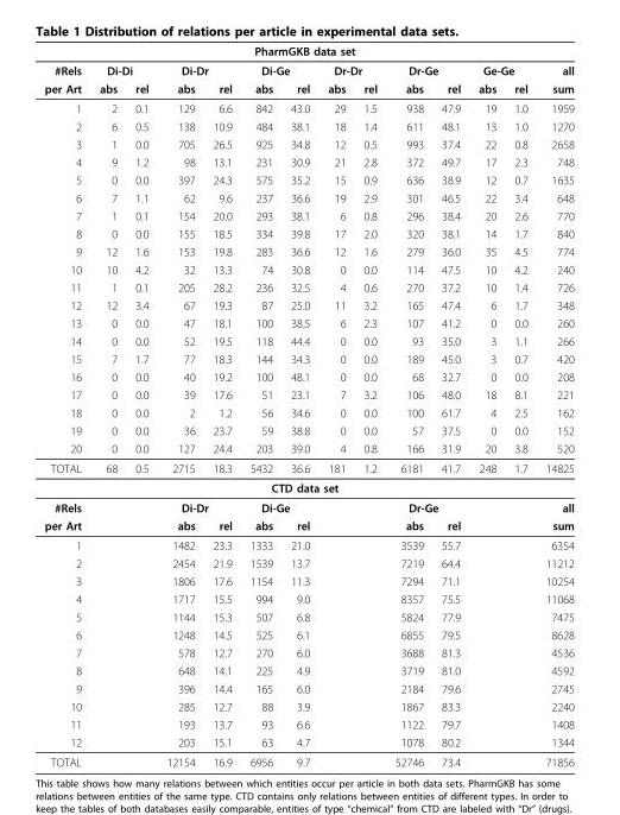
<table><thead><tr><td colspan="14">PharmGKB data set</td></tr><tr><td rowspan="2">#Rels per Art</td><td colspan="2">Di-Di</td><td colspan="2">Di-Dr</td><td colspan="2">Di-Ge</td><td colspan="2">Dr-Dr</td><td colspan="2">Dr-Ge</td><td colspan="2">Ge-Ge</td><td rowspan="2">all sum</td></tr><tr><td>abs</td><td>rel</td><td>abs</td><td>rel</td><td>abs</td><td>rel</td><td>abs</td><td>rel</td><td>abs</td><td>rel</td><td>abs</td><td>rel</td></tr></thead><tbody><tr><td>1</td><td>2</td><td>0.1</td><td>129</td><td>6.6</td><td>842</td><td>43.0</td><td>29</td><td>1.5</td><td>938</td><td>47.9</td><td>19</td><td>1.0</td><td>1959</td></tr><tr><td>2</td><td>6</td><td>0.5</td><td>138</td><td>10.9</td><td>484</td><td>38.1</td><td>18</td><td>1.4</td><td>611</td><td>48.1</td><td>13</td><td>1.0</td><td>1270</td></tr><tr><td>3</td><td>1</td><td>0.0</td><td>705</td><td>26.5</td><td>925</td><td>34.8</td><td>12</td><td>0.5</td><td>993</td><td>37.4</td><td>22</td><td>0.8</td><td>2658</td></tr><tr><td>4</td><td>9</td><td>1.2</td><td>98</td><td>13.1</td><td>231</td><td>30.9</td><td>21</td><td>2.8</td><td>372</td><td>49.7</td><td>17</td><td>2.3</td><td>748</td></tr><tr><td>5</td><td>0</td><td>0.0</td><td>397</td><td>24.3</td><td>575</td><td>35.2</td><td>15</td><td>0.9</td><td>636</td><td>38.9</td><td>12</td><td>0.7</td><td>1635</td></tr><tr><td>6</td><td>7</td><td>1.1</td><td>62</td><td>9.6</td><td>237</td><td>36.6</td><td>19</td><td>2.9</td><td>301</td><td>46.5</td><td>22</td><td>3.4</td><td>648</td></tr><tr><td>7</td><td>1</td><td>0.1</td><td>154</td><td>20.0</td><td>293</td><td>38.1</td><td>6</td><td>0.8</td><td>296</td><td>38.4</td><td>20</td><td>2.6</td><td>770</td></tr><tr><td>8</td><td>0</td><td>0.0</td><td>155</td><td>18.5</td><td>334</td><td>39.8</td><td>17</td><td>2.0</td><td>320</td><td>38.1</td><td>14</td><td>1.7</td><td>840</td></tr><tr><td>9</td><td>12</td><td>1.6</td><td>153</td><td>19.8</td><td>283</td><td>36.6</td><td>12</td><td>1.6</td><td>279</td><td>36.0</td><td>35</td><td>4.5</td><td>774</td></tr><tr><td>10</td><td>10</td><td>4.2</td><td>32</td><td>13.3</td><td>74</td><td>30.8</td><td>0</td><td>0.0</td><td>114</td><td>47.5</td><td>10</td><td>4.2</td><td>240</td></tr><tr><td>11</td><td>1</td><td>0.1</td><td>205</td><td>28.2</td><td>236</td><td>32.5</td><td>4</td><td>0.6</td><td>270</td><td>37.2</td><td>10</td><td>1.4</td><td>726</td></tr><tr><td>12</td><td>12</td><td>3.4</td><td>67</td><td>19.3</td><td>87</td><td>25.0</td><td>11</td><td>3.2</td><td>165</td><td>47.4</td><td>6</td><td>1.7</td><td>348</td></tr><tr><td>13</td><td>0</td><td>0.0</td><td>47</td><td>18.1</td><td>100</td><td>38.5</td><td>6</td><td>2.3</td><td>107</td><td>41.2</td><td>0</td><td>0.0</td><td>260</td></tr><tr><td>14</td><td>0</td><td>0.0</td><td>52</td><td>19.5</td><td>118</td><td>44.4</td><td>0</td><td>0.0</td><td>93</td><td>35.0</td><td>3</td><td>1.1</td><td>266</td></tr><tr><td>15</td><td>7</td><td>1.7</td><td>77</td><td>18.3</td><td>144</td><td>34.3</td><td>0</td><td>0.0</td><td>189</td><td>45.0</td><td>3</td><td>0.7</td><td>420</td></tr><tr><td>16</td><td>0</td><td>0.0</td><td>40</td><td>19.2</td><td>100</td><td>48.1</td><td>0</td><td>0.0</td><td>68</td><td>32.7</td><td>0</td><td>0.0</td><td>208</td></tr><tr><td>17</td><td>0</td><td>0.0</td><td>39</td><td>17.6</td><td>51</td><td>23.1</td><td>7</td><td>3.2</td><td>106</td><td>48.0</td><td>18</td><td>8.1</td><td>221</td></tr><tr><td>18</td><td>0</td><td>0.0</td><td>2</td><td>1.2</td><td>56</td><td>34.6</td><td>0</td><td>0.0</td><td>100</td><td>61.7</td><td>4</td><td>2.5</td><td>162</td></tr><tr><td>19</td><td>0</td><td>0.0</td><td>36</td><td>23.7</td><td>59</td><td>38.8</td><td>0</td><td>0.0</td><td>57</td><td>37.5</td><td>0</td><td>0.0</td><td>152</td></tr><tr><td>20</td><td>0</td><td>0.0</td><td>127</td><td>24.4</td><td>203</td><td>39.0</td><td>4</td><td>0.8</td><td>166</td><td>31.9</td><td>20</td><td>3.8</td><td>520</td></tr><tr><td>TOTAL</td><td>68</td><td>0.5</td><td>2715</td><td>18.3</td><td>5432</td><td>36.6</td><td>181</td><td>1.2</td><td>6181</td><td>41.7</td><td>248</td><td>1.7</td><td>14825</td></tr><tr><td colspan="14">CTD data set</td></tr><tr><td>#Rels</td><td></td><td></td><td colspan="2">Di-Dr</td><td colspan="2">Di-Ge</td><td></td><td></td><td colspan="2">Dr-Ge</td><td></td><td></td><td>all</td></tr><tr><td>per Art</td><td></td><td></td><td>abs</td><td>rel</td><td>abs</td><td>rel</td><td></td><td></td><td>abs</td><td>rel</td><td></td><td></td><td>sum</td></tr><tr><td>1</td><td></td><td></td><td>1482</td><td>23.3</td><td>1333</td><td>21.0</td><td></td><td></td><td>3539</td><td>55.7</td><td></td><td></td><td>6354</td></tr><tr><td>2</td><td></td><td></td><td>2454</td><td>21.9</td><td>1539</td><td>13.7</td><td></td><td></td><td>7219</td><td>64.4</td><td></td><td></td><td>11212</td></tr><tr><td>3</td><td></td><td></td><td>1806</td><td>17.6</td><td>1154</td><td>11.3</td><td></td><td></td><td>7294</td><td>71.1</td><td></td><td></td><td>10254</td></tr><tr><td>4</td><td></td><td></td><td>1717</td><td>15.5</td><td>994</td><td>9.0</td><td></td><td></td><td>8357</td><td>75.5</td><td></td><td></td><td>11068</td></tr><tr><td>5</td><td></td><td></td><td>1144</td><td>15.3</td><td>507</td><td>6.8</td><td></td><td></td><td>5824</td><td>77.9</td><td></td><td></td><td>7475</td></tr><tr><td>6</td><td></td><td></td><td>1248</td><td>14.5</td><td>525</td><td>6.1</td><td></td><td></td><td>6855</td><td>79.5</td><td></td><td></td><td>8628</td></tr><tr><td>7</td><td></td><td></td><td>578</td><td>12.7</td><td>270</td><td>6.0</td><td></td><td></td><td>3688</td><td>81.3</td><td></td><td></td><td>4536</td></tr><tr><td>8</td><td></td><td></td><td>648</td><td>14.1</td><td>225</td><td>4.9</td><td></td><td></td><td>3719</td><td>81.0</td><td></td><td></td><td>4592</td></tr><tr><td>9</td><td></td><td></td><td>396</td><td>14.4</td><td>165</td><td>6.0</td><td></td><td></td><td>2184</td><td>79.6</td><td></td><td></td><td>2745</td></tr><tr><td>10</td><td></td><td></td><td>285</td><td>12.7</td><td>88</td><td>3.9</td><td></td><td></td><td>1867</td><td>83.3</td><td></td><td></td><td>2240</td></tr><tr><td>11</td><td></td><td></td><td>193</td><td>13.7</td><td>93</td><td>6.6</td><td></td><td></td><td>1122</td><td>79.7</td><td></td><td></td><td>1408</td></tr><tr><td>12</td><td></td><td></td><td>203</td><td>15.1</td><td>63</td><td>4.7</td><td></td><td></td><td>1078</td><td>80.2</td><td></td><td></td><td>1344</td></tr><tr><td>TOTAL</td><td></td><td></td><td>12154</td><td>16.9</td><td>6956</td><td>9.7</td><td></td><td></td><td>52746</td><td>73.4</td><td></td><td></td><td>71856</td></tr></tbody></table>